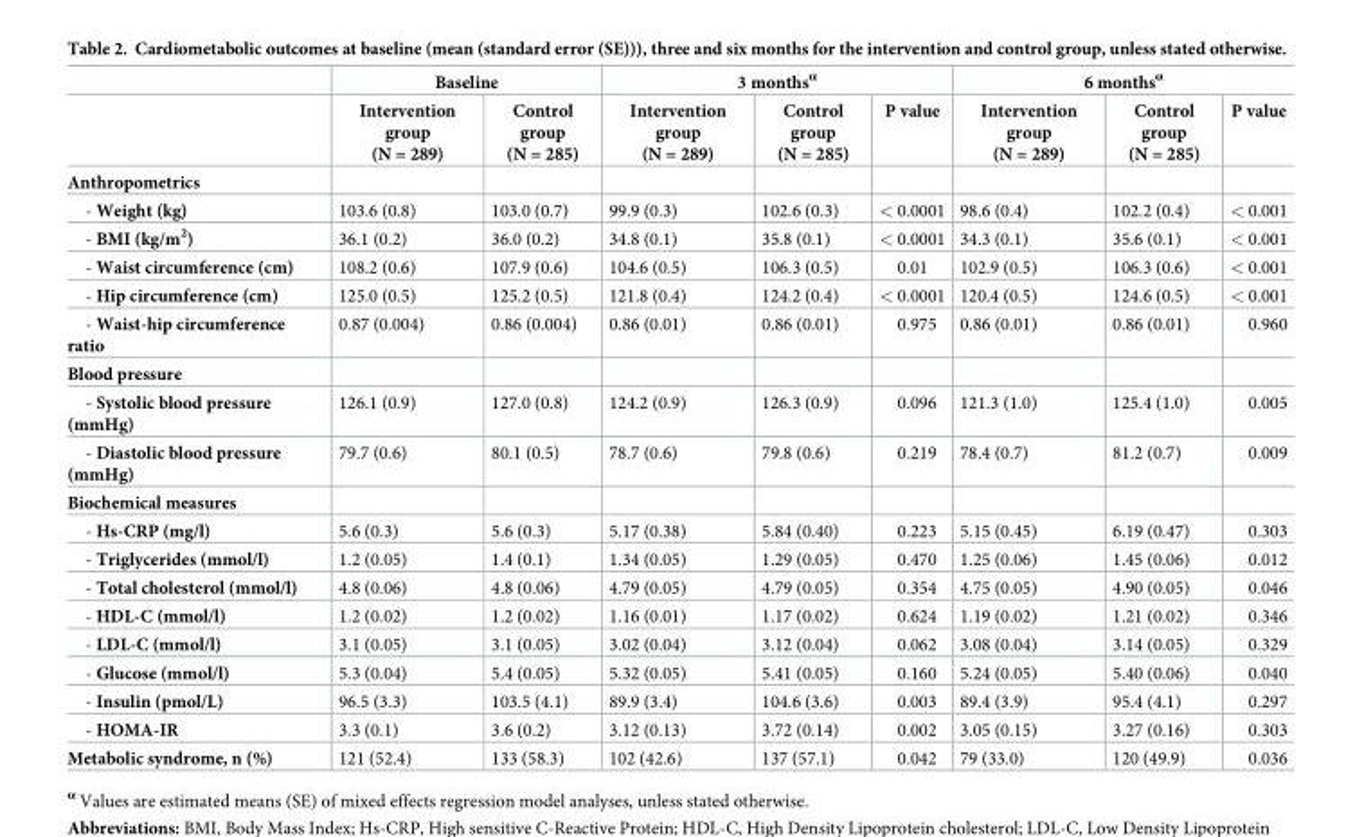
<table><thead><tr><td rowspan="2"></td><td colspan="2">Baseline</td><td colspan="3">3 months<sup>α</sup></td><td colspan="3">6 months<sup>α</sup></td></tr><tr><td>Intervention group (N = 289)</td><td>Control group (N = 285)</td><td>Intervention group (N = 289)</td><td>Control group (N = 285)</td><td>P value</td><td>Intervention group (N = 289)</td><td>Control group (N = 285)</td><td>P value</td></tr></thead><tbody><tr><td colspan="9">Anthropometrics</td></tr><tr><td>- Weight (kg)</td><td>103.6 (0.8)</td><td>103.0 (0.7)</td><td>99.9 (0.3)</td><td>102.6 (0.3)</td><td>&lt; 0.0001</td><td>98.6 (0.4)</td><td>102.2 (0.4)</td><td>&lt; 0.001</td></tr><tr><td>- BMI (kg/m<sup>2</sup>)</td><td>36.1 (0.2)</td><td>36.0 (0.2)</td><td>34.8 (0.1)</td><td>35.8 (0.1)</td><td>&lt; 0.0001</td><td>34.3 (0.1)</td><td>35.6 (0.1)</td><td>&lt; 0.001</td></tr><tr><td>- Waist circumference (cm)</td><td>108.2 (0.6)</td><td>107.9 (0.6)</td><td>104.6 (0.5)</td><td>106.3 (0.5)</td><td>0.01</td><td>102.9 (0.5)</td><td>106.3 (0.6)</td><td>&lt; 0.001</td></tr><tr><td>- Hip circumference (cm)</td><td>125.0 (0.5)</td><td>125.2 (0.5)</td><td>121.8 (0.4)</td><td>124.2 (0.4)</td><td>&lt; 0.0001</td><td>120.4 (0.5)</td><td>124.6 (0.5)</td><td>&lt; 0.001</td></tr><tr><td>- Waist-hip circumference ratio</td><td>0.87 (0.004)</td><td>0.86 (0.004)</td><td>0.86 (0.01)</td><td>0.86 (0.01)</td><td>0.975</td><td>0.86 (0.01)</td><td>0.86 (0.01)</td><td>0.960</td></tr><tr><td colspan="9">Blood pressure</td></tr><tr><td>- Systolic blood pressure (mmHg)</td><td>126.1 (0.9)</td><td>127.0 (0.8)</td><td>124.2 (0.9)</td><td>126.3 (0.9)</td><td>0.096</td><td>121.3 (1.0)</td><td>125.4 (1.0)</td><td>0.005</td></tr><tr><td>- Diastolic blood pressure (mmHg)</td><td>79.7 (0.6)</td><td>80.1 (0.5)</td><td>78.7 (0.6)</td><td>79.8 (0.6)</td><td>0.219</td><td>78.4 (0.7)</td><td>81.2 (0.7)</td><td>0.009</td></tr><tr><td colspan="9">Biochemical measures</td></tr><tr><td>- Hs-CRP (mg/l)</td><td>5.6 (0.3)</td><td>5.6 (0.3)</td><td>5.17 (0.38)</td><td>5.84 (0.40)</td><td>0.223</td><td>5.15 (0.45)</td><td>6.19 (0.47)</td><td>0.303</td></tr><tr><td>- Triglycerides (mmol/l)</td><td>1.2 (0.05)</td><td>1.4 (0.1)</td><td>1.34 (0.05)</td><td>1.29 (0.05)</td><td>0.470</td><td>1.25 (0.06)</td><td>1.45 (0.06)</td><td>0.012</td></tr><tr><td>- Total cholesterol (mmol/l)</td><td>4.8 (0.06)</td><td>4.8 (0.06)</td><td>4.79 (0.05)</td><td>4.79 (0.05)</td><td>0.354</td><td>4.75 (0.05)</td><td>4.90 (0.05)</td><td>0.046</td></tr><tr><td>- HDL-C (mmol/l)</td><td>1.2 (0.02)</td><td>1.2 (0.02)</td><td>1.16 (0.01)</td><td>1.17 (0.02)</td><td>0.624</td><td>1.19 (0.02)</td><td>1.21 (0.02)</td><td>0.346</td></tr><tr><td>- LDL-C (mmol/l)</td><td>3.1 (0.05)</td><td>3.1 (0.05)</td><td>3.02 (0.04)</td><td>3.12 (0.04)</td><td>0.062</td><td>3.08 (0.04)</td><td>3.14 (0.05)</td><td>0.329</td></tr><tr><td>- Glucose (mmol/l)</td><td>5.3 (0.04)</td><td>5.4 (0.05)</td><td>5.32 (0.05)</td><td>5.41 (0.05)</td><td>0.160</td><td>5.24 (0.05)</td><td>5.40 (0.06)</td><td>0.040</td></tr><tr><td>- Insulin (pmol/L)</td><td>96.5 (3.3)</td><td>103.5 (4.1)</td><td>89.9 (3.4)</td><td>104.6 (3.6)</td><td>0.003</td><td>89.4 (3.9)</td><td>95.4 (4.1)</td><td>0.297</td></tr><tr><td>- HOMA-IR</td><td>3.3 (0.1)</td><td>3.6 (0.2)</td><td>3.12 (0.13)</td><td>3.72 (0.14)</td><td>0.002</td><td>3.05 (0.15)</td><td>3.27 (0.16)</td><td>0.303</td></tr><tr><td>Metabolic syndrome, n (%)</td><td>121 (52.4)</td><td>133 (58.3)</td><td>102 (42.6)</td><td>137 (57.1)</td><td>0.042</td><td>79 (33.0)</td><td>120 (49.9)</td><td>0.036</td></tr></tbody></table>